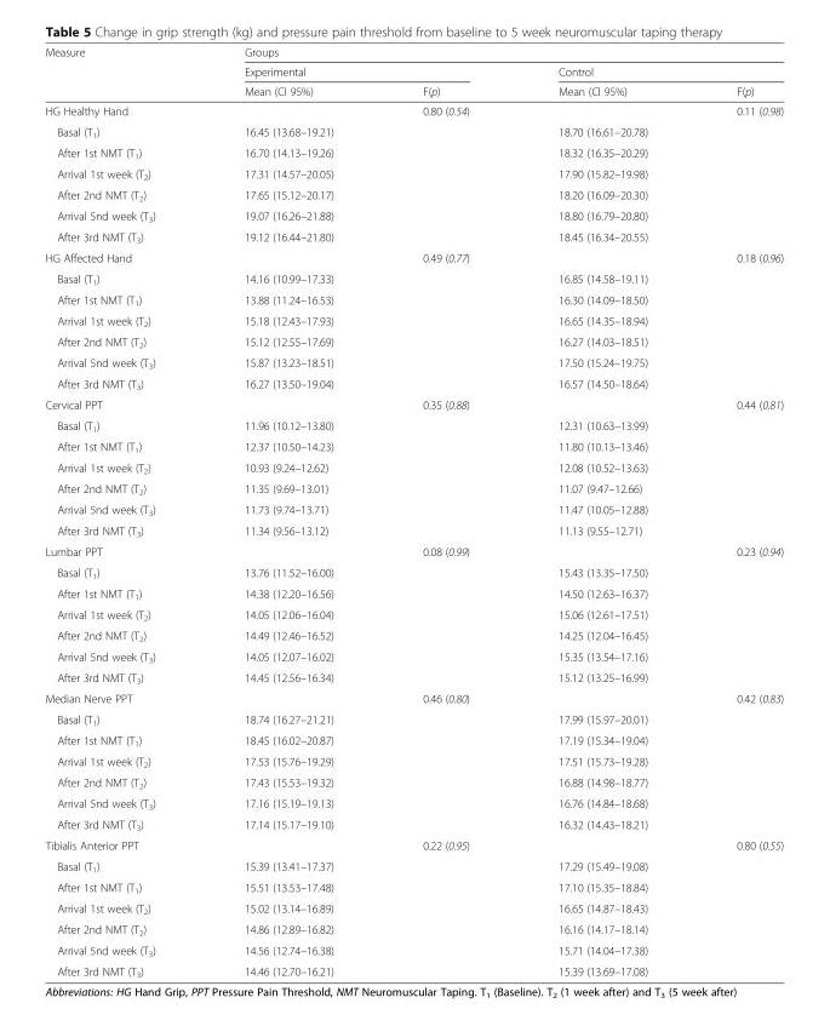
<table><thead><tr><td rowspan="3">Measure</td><td colspan="4">Groups</td></tr><tr><td colspan="2">Experimental</td><td colspan="2">Control</td></tr><tr><td>Mean (CI 95%)</td><td>F(p)</td><td>Mean (CI 95%)</td><td>F(p)</td></tr></thead><tbody><tr><td>HG Healthy Hand</td><td></td><td>0.80 (0.54)</td><td></td><td>0.11 (0.98)</td></tr><tr><td>Basal (T<sub>1</sub>)</td><td>16.45 (13.68–19.21)</td><td></td><td>18.70 (16.61–20.78)</td><td></td></tr><tr><td>After 1st NMT (T<sub>1</sub>)</td><td>16.70 (14.13–19.26)</td><td></td><td>18.32 (16.35–20.29)</td><td></td></tr><tr><td>Arrival 1st week (T<sub>2</sub>)</td><td>17.31 (14.57–20.05)</td><td></td><td>17.90 (15.82–19.98)</td><td></td></tr><tr><td>After 2nd NMT (T<sub>2</sub>)</td><td>17.65 (15.12–20.17)</td><td></td><td>18.20 (16.09–20.30)</td><td></td></tr><tr><td>Arrival 5nd week (T<sub>3</sub>)</td><td>19.07 (16.26–21.88)</td><td></td><td>18.80 (16.79–20.80)</td><td></td></tr><tr><td>After 3rd NMT (T<sub>3</sub>)</td><td>19.12 (16.44–21.80)</td><td></td><td>18.45 (16.34–20.55)</td><td></td></tr><tr><td>HG Affected Hand</td><td></td><td>0.49 (0.77)</td><td></td><td>0.18 (0.96)</td></tr><tr><td>Basal (T<sub>1</sub>)</td><td>14.16 (10.99–17.33)</td><td></td><td>16.85 (14.58–19.11)</td><td></td></tr><tr><td>After 1st NMT (T<sub>1</sub>)</td><td>13.88 (11.24–16.53)</td><td></td><td>16.30 (14.09–18.50)</td><td></td></tr><tr><td>Arrival 1st week (T<sub>2</sub>)</td><td>15.18 (12.43–17.93)</td><td></td><td>16.65 (14.35–18.94)</td><td rowspan="2"></td></tr><tr><td>After 2nd NMT (T<sub>2</sub>)</td><td>15.12 (12.55–17.69)</td><td></td><td>16.27 (14.03–18.51)</td></tr><tr><td>Arrival 5nd week (T<sub>3</sub>)</td><td>15.87 (13.23–18.51)</td><td></td><td>17.50 (15.24–19.75)</td><td></td></tr><tr><td>After 3rd NMT (T<sub>3</sub>)</td><td>16.27 (13.50–19.04)</td><td></td><td>16.57 (14.50–18.64)</td><td></td></tr><tr><td>Cervical PPT</td><td></td><td>0.35 (0.88)</td><td></td><td>0.44 (0.81)</td></tr><tr><td>Basal (T<sub>1</sub>)</td><td>11.96 (10.12–13.80)</td><td></td><td>12.31 (10.63–13.99)</td><td></td></tr><tr><td>After 1st NMT (T<sub>1</sub>)</td><td>12.37 (10.50–14.23)</td><td></td><td>11.80 (10.13–13.46)</td><td></td></tr><tr><td>Arrival 1st week (T<sub>2</sub>)</td><td>10.93 (9.24–12.62)</td><td></td><td>12.08 (10.52–13.63)</td><td></td></tr><tr><td>After 2nd NMT (T<sub>2</sub>)</td><td>11.35 (9.69–13.01)</td><td></td><td>11.07 (9.47–12.66)</td><td></td></tr><tr><td>Arrival 5nd week (T<sub>3</sub>)</td><td>11.73 (9.74–13.71)</td><td></td><td>11.47 (10.05–12.88)</td><td></td></tr><tr><td>After 3rd NMT (T<sub>3</sub>)</td><td>11.34 (9.56–13.12)</td><td></td><td>11.13 (9.55–12.71)</td><td></td></tr><tr><td>Lumbar PPT</td><td></td><td>0.08 (0.99)</td><td></td><td>0.23 (0.94)</td></tr><tr><td>Basal (T<sub>1</sub>)</td><td>13.76 (11.52–16.00)</td><td></td><td>15.43 (13.35–17.50)</td><td></td></tr><tr><td>After 1st NMT (T<sub>1</sub>)</td><td>14.38 (12.20–16.56)</td><td></td><td>14.50 (12.63–16.37)</td><td></td></tr><tr><td>Arrival 1st week (T<sub>2</sub>)</td><td>14.05 (12.06–16.04)</td><td></td><td>15.06 (12.61–17.51)</td><td></td></tr><tr><td>After 2nd NMT (T<sub>2</sub>)</td><td>14.49 (12.46–16.52)</td><td></td><td>14.25 (12.04–16.45)</td><td></td></tr><tr><td>Arrival 5nd week (T<sub>3</sub>)</td><td>14.05 (12.07–16.02)</td><td></td><td>15.35 (13.54–17.16)</td><td></td></tr><tr><td>After 3rd NMT (T<sub>3</sub>)</td><td>14.45 (12.56–16.34)</td><td></td><td>15.12 (13.25–16.99)</td><td></td></tr><tr><td>Median Nerve PPT</td><td></td><td>0.46 (0.80)</td><td></td><td>0.42 (0.83)</td></tr><tr><td>Basal (T<sub>1</sub>)</td><td>18.74 (16.27–21.21)</td><td></td><td>17.99 (15.97–20.01)</td><td></td></tr><tr><td>After 1st NMT (T<sub>1</sub>)</td><td>18.45 (16.02–20.87)</td><td></td><td>17.19 (15.34–19.04)</td><td></td></tr><tr><td>Arrival 1st week (T<sub>2</sub>)</td><td>17.53 (15.76–19.29)</td><td></td><td>17.51 (15.73–19.28)</td><td></td></tr><tr><td>After 2nd NMT (T<sub>2</sub>)</td><td>17.43 (15.53–19.32)</td><td></td><td>16.88 (14.98–18.77)</td><td></td></tr><tr><td>Arrival 5nd week (T<sub>3</sub>)</td><td>17.16 (15.19–19.13)</td><td></td><td>16.76 (14.84–18.68)</td><td></td></tr><tr><td>After 3rd NMT (T<sub>3</sub>)</td><td>17.14 (15.17–19.10)</td><td></td><td>16.32 (14.43–18.21)</td><td></td></tr><tr><td>Tibialis Anterior PPT</td><td></td><td>0.22 (0.95)</td><td></td><td>0.80 (0.55)</td></tr><tr><td>Basal (T<sub>1</sub>)</td><td>15.39 (13.41–17.37)</td><td></td><td>17.29 (15.49–19.08)</td><td></td></tr><tr><td>After 1st NMT (T<sub>1</sub>)</td><td>15.51 (13.53–17.48)</td><td></td><td>17.10 (15.35–18.84)</td><td></td></tr><tr><td>Arrival 1st week (T<sub>2</sub>)</td><td>15.02 (13.14–16.89)</td><td></td><td>16.65 (14.87–18.43)</td><td></td></tr><tr><td>After 2nd NMT (T<sub>2</sub>)</td><td>14.86 (12.89–16.82)</td><td></td><td>16.16 (14.17–18.14)</td><td></td></tr><tr><td>Arrival 5nd week (T<sub>3</sub>)</td><td>14.56 (12.74–16.38)</td><td></td><td>15.71 (14.04–17.38)</td><td></td></tr><tr><td>After 3rd NMT (T<sub>3</sub>)</td><td>14.46 (12.70–16.21)</td><td></td><td>15.39 (13.69–17.08)</td><td></td></tr></tbody></table>